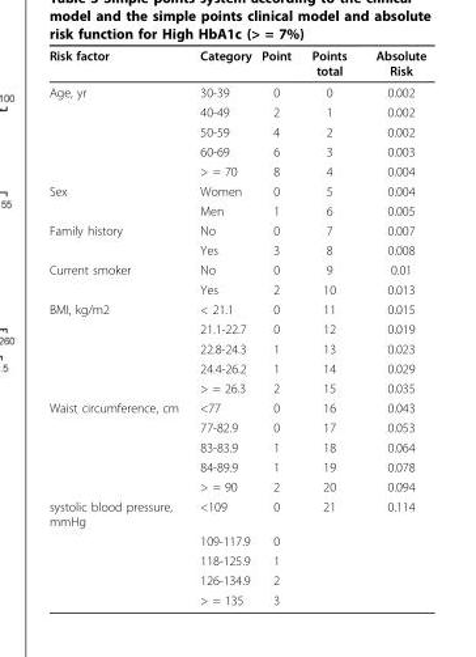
<table><tbody><tr><td>Risk factor</td><td>Category</td><td>Point</td><td>Points total</td><td>Absolute Risk</td></tr><tr><td rowspan="5">Age, yr</td><td>30-39</td><td>0</td><td>0</td><td>0.002</td></tr><tr><td>40-49</td><td>2</td><td>1</td><td>0.002</td></tr><tr><td>50-59</td><td>4</td><td>2</td><td>0.002</td></tr><tr><td>60-69</td><td>6</td><td>3</td><td>0.003</td></tr><tr><td>&gt; = 70</td><td>8</td><td>4</td><td>0.004</td></tr><tr><td rowspan="2">Sex</td><td>Women</td><td>0</td><td>5</td><td>0.004</td></tr><tr><td>Men</td><td>1</td><td>6</td><td>0.005</td></tr><tr><td rowspan="2">Family history</td><td>No</td><td>0</td><td>7</td><td>0.007</td></tr><tr><td>Yes</td><td>3</td><td>8</td><td>0.008</td></tr><tr><td rowspan="2">Current smoker</td><td>No</td><td>0</td><td>9</td><td>0.01</td></tr><tr><td>Yes</td><td>2</td><td>10</td><td>0.013</td></tr><tr><td rowspan="5">BMI, kg/m2</td><td>&lt; 21.1</td><td>0</td><td>11</td><td>0.015</td></tr><tr><td>21.1-22.7</td><td>0</td><td>12</td><td>0.019</td></tr><tr><td>22.8-24.3</td><td>1</td><td>13</td><td>0.023</td></tr><tr><td>24.4-26.2</td><td>1</td><td>14</td><td>0.029</td></tr><tr><td>&gt; = 26.3</td><td>2</td><td>15</td><td>0.035</td></tr><tr><td rowspan="5">Waist circumference, cm</td><td>&lt;77</td><td>0</td><td>16</td><td>0.043</td></tr><tr><td>77-82.9</td><td>0</td><td>17</td><td>0.053</td></tr><tr><td>83-83.9</td><td>1</td><td>18</td><td>0.064</td></tr><tr><td>84-89.9</td><td>1</td><td>19</td><td>0.078</td></tr><tr><td>&gt; = 90</td><td>2</td><td>20</td><td>0.094</td></tr><tr><td rowspan="5">systolic blood pressure, mmHg</td><td>&lt;109</td><td>0</td><td>21</td><td>0.114</td></tr><tr><td>109-117.9</td><td>0</td><td></td><td></td></tr><tr><td>118-125.9</td><td>1</td><td></td><td></td></tr><tr><td>126-134.9</td><td>2</td><td></td><td></td></tr><tr><td>&gt; = 135</td><td>3</td><td></td><td></td></tr></tbody></table>